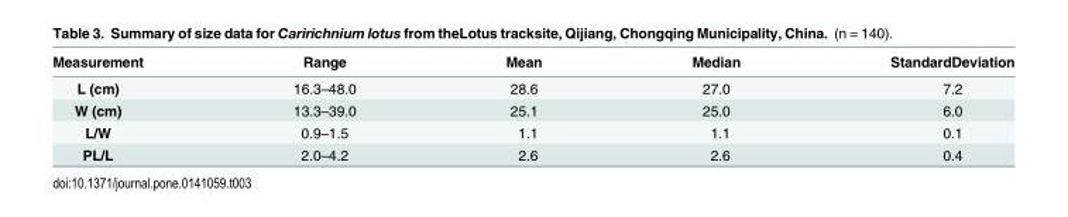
<table><thead><tr><td>Measurement</td><td>Range</td><td>Mean</td><td>Median</td><td>StandardDeviation</td></tr></thead><tbody><tr><td>L (cm)</td><td>16.3–48.0</td><td>28.6</td><td>27.0</td><td>7.2</td></tr><tr><td>W (cm)</td><td>13.3–39.0</td><td>25.1</td><td>25.0</td><td>6.0</td></tr><tr><td>L/W</td><td>0.9–1.5</td><td>1.1</td><td>1.1</td><td>0.1</td></tr><tr><td>PL/L</td><td>2.0–4.2</td><td>2.6</td><td>2.6</td><td>0.4</td></tr></tbody></table>